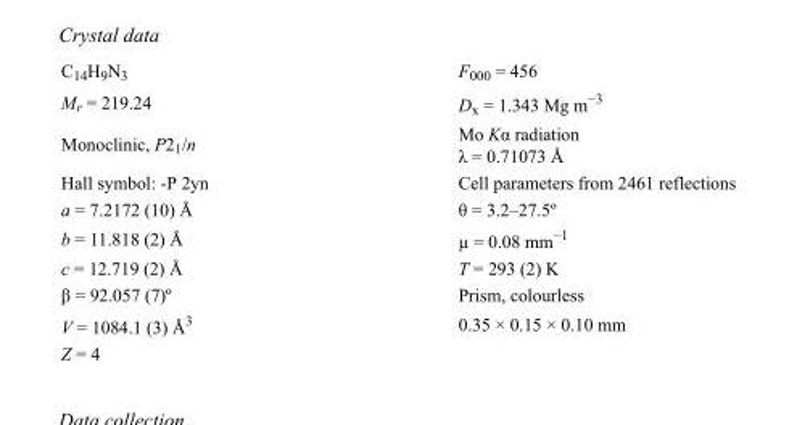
<table><tbody><tr><td>C<sub>14</sub>H<sub>9</sub>N<sub>3</sub></td><td>F<sub>000</sub> = 456</td></tr><tr><td>M<sub>r</sub> = 219.24</td><td>D<sub>x</sub> = 1.343 Mg m<sup>−3</sup></td></tr><tr><td>Monoclinic, P2<sub>1</sub>/n</td><td>Mo Kα radiation λ = 0.71073 Å</td></tr><tr><td>Hall symbol: -P 2yn</td><td>Cell parameters from 2461 reflections</td></tr><tr><td>a = 7.2172 (10) Å</td><td>θ = 3.2–27.5º</td></tr><tr><td>b = 11.818 (2) Å</td><td>µ = 0.08 mm<sup>−1</sup></td></tr><tr><td>c = 12.719 (2) Å</td><td>T = 293 (2) K</td></tr><tr><td>β = 92.057 (7)º</td><td>Prism, colourless</td></tr><tr><td>V = 1084.1 (3) Å<sup>3</sup></td><td>0.35 × 0.15 × 0.10 mm</td></tr><tr><td>Z = 4</td><td></td></tr></tbody></table>